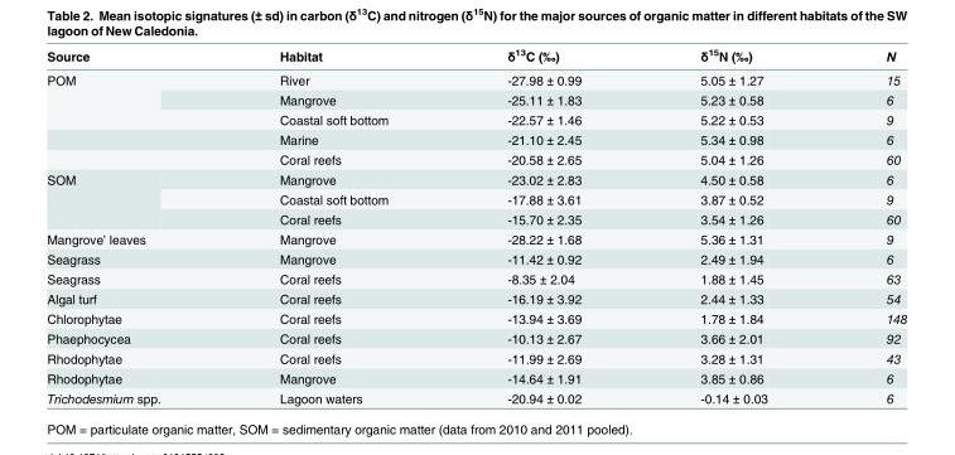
<table><thead><tr><td>Source</td><td>Habitat</td><td>δ<sup>13</sup>C (‰)</td><td>δ<sup>15</sup>N (‰)</td><td>N</td></tr></thead><tbody><tr><td rowspan="5">POM</td><td>River</td><td>-27.98 ± 0.99</td><td>5.05 ± 1.27</td><td>15</td></tr><tr><td>Mangrove</td><td>-25.11 ± 1.83</td><td>5.23 ± 0.58</td><td>6</td></tr><tr><td>Coastal soft bottom</td><td>-22.57 ± 1.46</td><td>5.22 ± 0.53</td><td>9</td></tr><tr><td>Marine</td><td>-21.10 ± 2.45</td><td>5.34 ± 0.98</td><td>6</td></tr><tr><td>Coral reefs</td><td>-20.58 ± 2.65</td><td>5.04 ± 1.26</td><td>60</td></tr><tr><td rowspan="3">SOM</td><td>Mangrove</td><td>-23.02 ± 2.83</td><td>4.50 ± 0.58</td><td>6</td></tr><tr><td>Coastal soft bottom</td><td>-17.88 ± 3.61</td><td>3.87 ± 0.52</td><td>9</td></tr><tr><td>Coral reefs</td><td>-15.70 ± 2.35</td><td>3.54 ± 1.26</td><td>60</td></tr><tr><td>Mangrove’ leaves</td><td>Mangrove</td><td>-28.22 ± 1.68</td><td>5.36 ± 1.31</td><td>9</td></tr><tr><td>Seagrass</td><td>Mangrove</td><td>-11.42 ± 0.92</td><td>2.49 ± 1.94</td><td>6</td></tr><tr><td>Seagrass</td><td>Coral reefs</td><td>-8.35 ± 2.04</td><td>1.88 ± 1.45</td><td>63</td></tr><tr><td>Algal turf</td><td>Coral reefs</td><td>-16.19 ± 3.92</td><td>2.44 ± 1.33</td><td>54</td></tr><tr><td>Chlorophytae</td><td>Coral reefs</td><td>-13.94 ± 3.69</td><td>1.78 ± 1.84</td><td>148</td></tr><tr><td>Phaephocycea</td><td>Coral reefs</td><td>-10.13 ± 2.67</td><td>3.66 ± 2.01</td><td>92</td></tr><tr><td>Rhodophytae</td><td>Coral reefs</td><td>-11.99 ± 2.69</td><td>3.28 ± 1.31</td><td>43</td></tr><tr><td>Rhodophytae</td><td>Mangrove</td><td>-14.64 ± 1.91</td><td>3.85 ± 0.86</td><td>6</td></tr><tr><td>Trichodesmium spp.</td><td>Lagoon waters</td><td>-20.94 ± 0.02</td><td>-0.14 ± 0.03</td><td>6</td></tr></tbody></table>